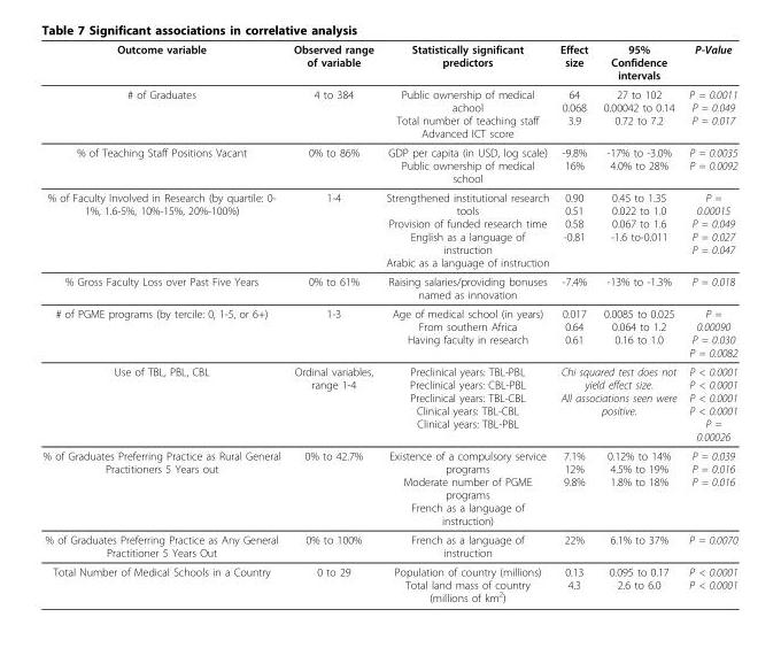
<table><thead><tr><td>Outcome variable</td><td>Observed range of variable</td><td>Statistically significant predictors</td><td>Effect size</td><td>95% Confidence intervals</td><td>P-Value</td></tr></thead><tbody><tr><td># of Graduates</td><td>4 to 384</td><td>Public ownership of medical achool Total number of teaching staff Advanced ICT score</td><td>64 0.068 3.9</td><td>27 to 102 0.00042 to 0.14 0.72 to 7.2</td><td>P = 0.0011 P = 0.049 P = 0.017</td></tr><tr><td>% of Teaching Staff Positions Vacant</td><td>0% to 86%</td><td>GDP per capita (in USD, log scale) Public ownership of medical school</td><td>-9.8% 16%</td><td>-17% to -3.0% 4.0% to 28%</td><td>P = 0.0035 P = 0.0092</td></tr><tr><td>% of Faculty Involved in Research (by quartile: 0- 1%, 1.6-5%, 10%-15%, 20%-100%)</td><td>1-4</td><td>Strengthened institutional research tools Provision of funded research time English as a language of instruction Arabic as a language of instruction</td><td>0.90 0.51 0.58 -0.81</td><td>0.45 to 1.35 0.022 to 1.0 0.067 to 1.6 -1.6 to-0.011</td><td>P = 0.00015 P = 0.049 P = 0.027 P = 0.047</td></tr><tr><td>% Gross Faculty Loss over Past Five Years</td><td>0% to 61%</td><td>Raising salaries/providing bonuses named as innovation</td><td>-7.4%</td><td>-13% to -1.3%</td><td>P = 0.018</td></tr><tr><td># of PGME programs (by tercile: 0, 1-5, or 6+)</td><td>1-3</td><td>Age of medical school (in years) From southern Africa Having faculty in research</td><td>0.017 0.64 0.61</td><td>0.0085 to 0.025 0.064 to 1.2 0.16 to 1.0</td><td>P = 0.00090 P = 0.030 P = 0.0082</td></tr><tr><td>Use of TBL, PBL, CBL</td><td>Ordinal variables, range 1-4</td><td>Preclinical years: TBL-PBL Preclinical years: CBL-PBL Preclinical years: TBL-CBL Clinical years: TBL-CBL Clinical years: TBL-PBL</td><td colspan="2">Chi squared test does not yield effect size. All associations seen were positive.</td><td>P &lt; 0.0001 P &lt; 0.0001 P &lt; 0.0001 P &lt; 0.0001 P = 0.00026</td></tr><tr><td>% of Graduates Preferring Practice as Rural General Practitioners 5 Years out</td><td>0% to 42.7%</td><td>Existence of a compulsory service programs Moderate number of PGME programs French as a language of instruction)</td><td>7.1% 12% 9.8%</td><td>0.12% to 14% 4.5% to 19% 1.8% to 18%</td><td>P = 0.039 P = 0.016 P = 0.016</td></tr><tr><td>% of Graduates Preferring Practice as Any General Practitioner 5 Years Out</td><td>0% to 100%</td><td>French as a language of instruction</td><td>22%</td><td>6.1% to 37%</td><td>P = 0.0070</td></tr><tr><td>Total Number of Medical Schools in a Country</td><td>0 to 29</td><td>Population of country (millions) Total land mass of country (millions of km<sup>2</sup>)</td><td>0.13 4.3</td><td>0.095 to 0.17 2.6 to 6.0</td><td>P &lt; 0.0001 P &lt; 0.0001</td></tr></tbody></table>